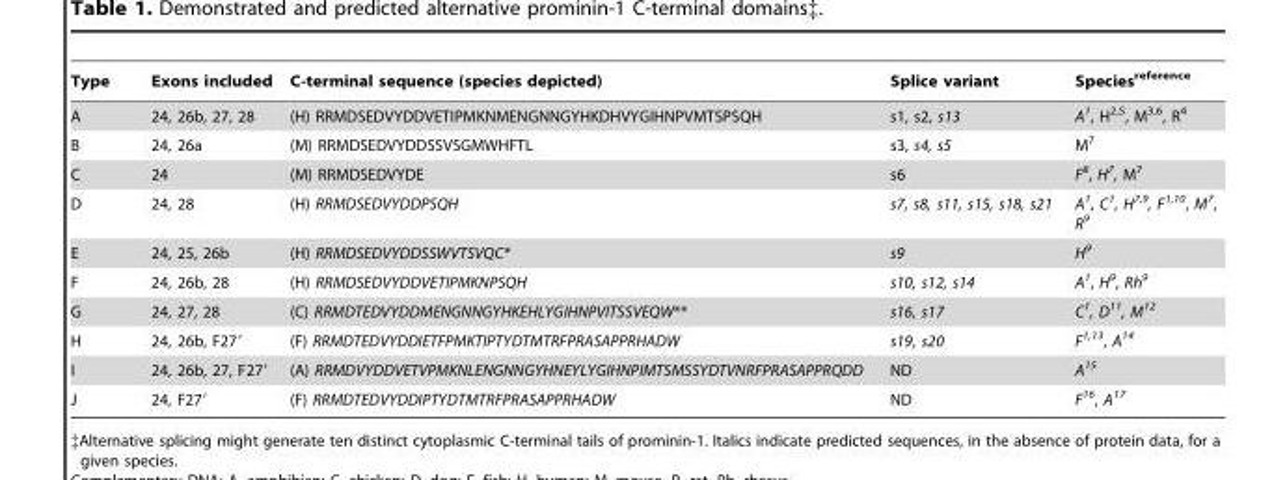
<table><thead><tr><td>Type</td><td>Exons included</td><td>C-terminal sequence (species depicted)</td><td>Splice variant</td><td>Species<sup>reference</sup></td></tr></thead><tbody><tr><td>A</td><td>24, 26b, 27, 28</td><td>(H) RRMDSEDVYDDVETIPMKNMENGNNGYHKDHVYGIHNPVMTSPSQH</td><td>s1, s2, s13</td><td>A<sup>1</sup>, H<sup>2,5</sup>, M<sup>3,6</sup>, R<sup>4</sup></td></tr><tr><td>B</td><td>24, 26a</td><td>(M) RRMDSEDVYDDSSVSGMWHFTL</td><td>s3, s4, s5</td><td>M<sup>7</sup></td></tr><tr><td>C</td><td>24</td><td>(M) RRMDSEDVYDE</td><td>s6</td><td>F<sup>8</sup>, H<sup>7</sup>, M<sup>7</sup></td></tr><tr><td>D</td><td>24, 28</td><td>(H) RRMDSEDVYDDPSQH</td><td>s7, s8, s11, s15, s18, s21</td><td>A<sup>1</sup>, C<sup>1</sup>, H<sup>7,9</sup>, F<sup>1,10</sup>, M<sup>7</sup>, R<sup>9</sup></td></tr><tr><td>E</td><td>24, 25, 26b</td><td>(H) RRMDSEDVYDDSSWVTSVQC*</td><td>s9</td><td>H<sup>9</sup></td></tr><tr><td>F</td><td>24, 26b, 28</td><td>(H) RRMDSEDVYDDVETIPMKNPSQH</td><td>s10, s12, s14</td><td>A<sup>1</sup>, H<sup>9</sup>, Rh<sup>9</sup></td></tr><tr><td>G</td><td>24, 27, 28</td><td>(C) RRMDTEDVYDDMENGNNGYHKEHLYGIHNPVITSSVEQW**</td><td>s16, s17</td><td>C<sup>1</sup>, D<sup>11</sup>, M<sup>12</sup></td></tr><tr><td>H</td><td>24, 26b, F27′</td><td>(F) RRMDTEDVYDDIETFPMKTIPTYDTMTRFPRASAPPRHADW</td><td>s19, s20</td><td>F<sup>1,13</sup>, A<sup>14</sup></td></tr><tr><td>I</td><td>24, 26b, 27, F27′</td><td>(A) RRMDVYDDVETVPMKNLENGNNGYHNEYLYGIHNPIMTSMSSYDTVNRFPRASAPPRQDD</td><td>ND</td><td>A<sup>15</sup></td></tr><tr><td>J</td><td>24, F27′</td><td>(F) RRMDTEDVYDDIPTYDTMTRFPRASAPPRHADW</td><td>ND</td><td>F<sup>16</sup>, A<sup>17</sup></td></tr></tbody></table>